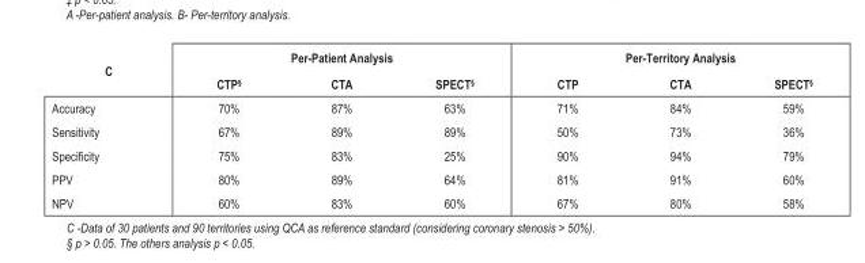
<table><thead><tr><td rowspan="2">C</td><td colspan="3">Per-Patient Analysis</td><td colspan="3">Per-Territory Analysis</td></tr><tr><td>CTP§</td><td>CTA</td><td>SPECT§</td><td>CTP</td><td>CTA</td><td>SPECT§</td></tr></thead><tbody><tr><td>Accuracy</td><td>70%</td><td>87%</td><td>63%</td><td>71%</td><td>84%</td><td>59%</td></tr><tr><td>Sensitivity</td><td>67%</td><td>89%</td><td>89%</td><td>50%</td><td>73%</td><td>36%</td></tr><tr><td>Specificity</td><td>75%</td><td>83%</td><td>25%</td><td>90%</td><td>94%</td><td>79%</td></tr><tr><td>PPV</td><td>80%</td><td>89%</td><td>64%</td><td>81%</td><td>91%</td><td>60%</td></tr><tr><td>NPV</td><td>60%</td><td>83%</td><td>60%</td><td>67%</td><td>80%</td><td>58%</td></tr></tbody></table>